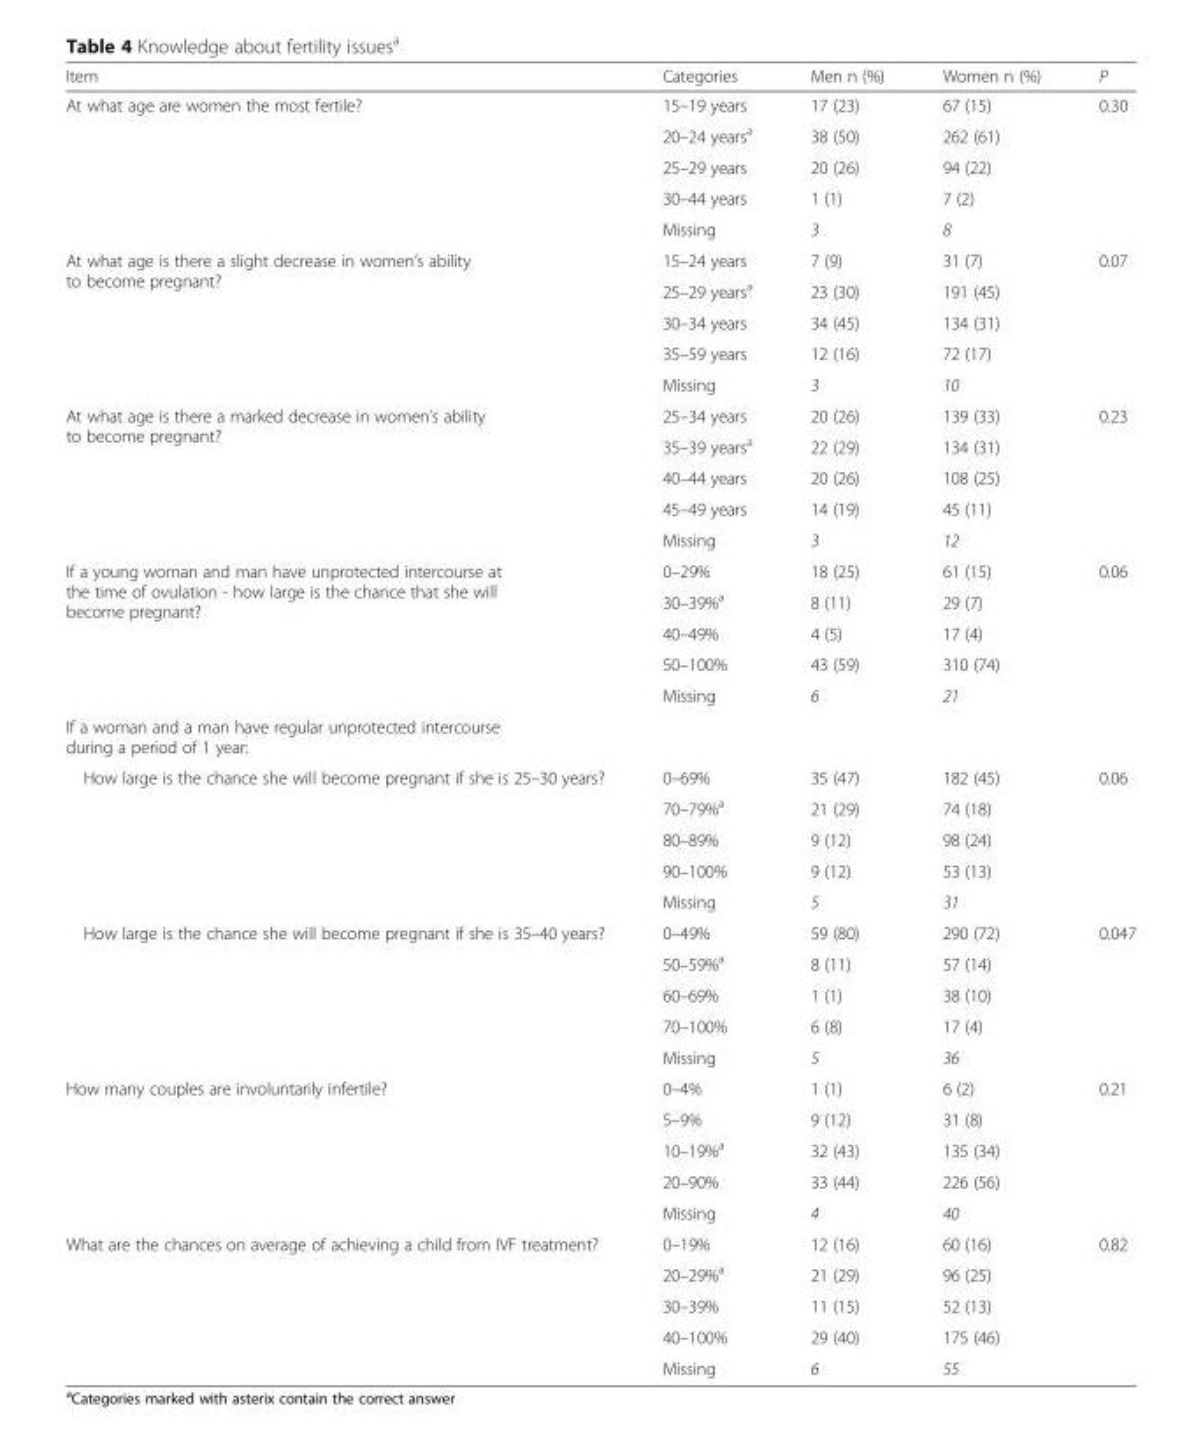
<table><thead><tr><td>Item</td><td>Categories</td><td>Men n (%)</td><td>Women n (%)</td><td>P</td></tr></thead><tbody><tr><td rowspan="5">At what age are women the most fertile?</td><td>15–19 years</td><td>17 (23)</td><td>67 (15)</td><td rowspan="5">0.30</td></tr><tr><td>20–24 years<sup>a</sup></td><td>38 (50)</td><td>262 (61)</td></tr><tr><td>25–29 years</td><td>20 (26)</td><td>94 (22)</td></tr><tr><td>30–44 years</td><td>1 (1)</td><td>7 (2)</td></tr><tr><td>Missing</td><td>3</td><td>8</td></tr><tr><td rowspan="5">At what age is there a slight decrease in women’s ability to become pregnant?</td><td>15–24 years</td><td>7 (9)</td><td>31 (7)</td><td rowspan="5">0.07</td></tr><tr><td>25–29 years<sup>a</sup></td><td>23 (30)</td><td>191 (45)</td></tr><tr><td>30–34 years</td><td>34 (45)</td><td>134 (31)</td></tr><tr><td>35–59 years</td><td>12 (16)</td><td>72 (17)</td></tr><tr><td>Missing</td><td>3</td><td>10</td></tr><tr><td rowspan="5">At what age is there a marked decrease in women’s ability to become pregnant?</td><td>25–34 years</td><td>20 (26)</td><td>139 (33)</td><td rowspan="5">0.23</td></tr><tr><td>35–39 years<sup>a</sup></td><td>22 (29)</td><td>134 (31)</td></tr><tr><td>40–44 years</td><td>20 (26)</td><td>108 (25)</td></tr><tr><td>45–49 years</td><td>14 (19)</td><td>45 (11)</td></tr><tr><td>Missing</td><td>3</td><td>12</td></tr><tr><td rowspan="5">If a young woman and man have unprotected intercourse at the time of ovulation - how large is the chance that she will become pregnant?</td><td>0–29%</td><td>18 (25)</td><td>61 (15)</td><td rowspan="5">0.06</td></tr><tr><td>30–39%<sup>a</sup></td><td>8 (11)</td><td>29 (7)</td></tr><tr><td>40–49%</td><td>4 (5)</td><td>17 (4)</td></tr><tr><td>50–100%</td><td>43 (59)</td><td>310 (74)</td></tr><tr><td>Missing</td><td>6</td><td>21</td></tr><tr><td colspan="5">If a woman and a man have regular unprotected intercourse during a period of 1 year:</td></tr><tr><td rowspan="5">How large is the chance she will become pregnant if she is 25–30 years?</td><td>0–69%</td><td>35 (47)</td><td>182 (45)</td><td rowspan="5">0.06</td></tr><tr><td>70–79%<sup>a</sup></td><td>21 (29)</td><td>74 (18)</td></tr><tr><td>80–89%</td><td>9 (12)</td><td>98 (24)</td></tr><tr><td>90–100%</td><td>9 (12)</td><td>53 (13)</td></tr><tr><td>Missing</td><td>5</td><td>31</td></tr><tr><td rowspan="5">How large is the chance she will become pregnant if she is 35–40 years?</td><td>0–49%</td><td>59 (80)</td><td>290 (72)</td><td rowspan="5">0.047</td></tr><tr><td>50–59%<sup>a</sup></td><td>8 (11)</td><td>57 (14)</td></tr><tr><td>60–69%</td><td>1 (1)</td><td>38 (10)</td></tr><tr><td>70–100%</td><td>6 (8)</td><td>17 (4)</td></tr><tr><td>Missing</td><td>5</td><td>36</td></tr><tr><td rowspan="5">How many couples are involuntarily infertile?</td><td>0–4%</td><td>1 (1)</td><td>6 (2)</td><td rowspan="5">0.21</td></tr><tr><td>5–9%</td><td>9 (12)</td><td>31 (8)</td></tr><tr><td>10–19%<sup>a</sup></td><td>32 (43)</td><td>135 (34)</td></tr><tr><td>20–90%</td><td>33 (44)</td><td>226 (56)</td></tr><tr><td>Missing</td><td>4</td><td>40</td></tr><tr><td rowspan="5">What are the chances on average of achieving a child from IVF treatment?</td><td>0–19%</td><td>12 (16)</td><td>60 (16)</td><td rowspan="5">0.82</td></tr><tr><td>20–29%<sup>a</sup></td><td>21 (29)</td><td>96 (25)</td></tr><tr><td>30–39%</td><td>11 (15)</td><td>52 (13)</td></tr><tr><td>40–100%</td><td>29 (40)</td><td>175 (46)</td></tr><tr><td>Missing</td><td>6</td><td>55</td></tr></tbody></table>